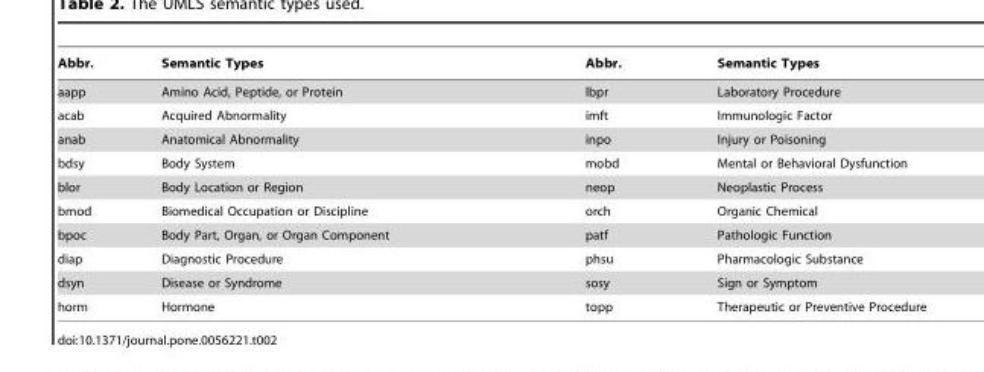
<table><thead><tr><td>Abbr.</td><td>Semantic Types</td><td>Abbr.</td><td>Semantic Types</td></tr></thead><tbody><tr><td>aapp</td><td>Amino Acid, Peptide, or Protein</td><td>lbpr</td><td>Laboratory Procedure</td></tr><tr><td>acab</td><td>Acquired Abnormality</td><td>imft</td><td>Immunologic Factor</td></tr><tr><td>anab</td><td>Anatomical Abnormality</td><td>inpo</td><td>Injury or Poisoning</td></tr><tr><td>bdsy</td><td>Body System</td><td>mobd</td><td>Mental or Behavioral Dysfunction</td></tr><tr><td>blor</td><td>Body Location or Region</td><td>neop</td><td>Neoplastic Process</td></tr><tr><td>bmod</td><td>Biomedical Occupation or Discipline</td><td>orch</td><td>Organic Chemical</td></tr><tr><td>bpoc</td><td>Body Part, Organ, or Organ Component</td><td>patf</td><td>Pathologic Function</td></tr><tr><td>diap</td><td>Diagnostic Procedure</td><td>phsu</td><td>Pharmacologic Substance</td></tr><tr><td>dsyn</td><td>Disease or Syndrome</td><td>sosy</td><td>Sign or Symptom</td></tr><tr><td>horm</td><td>Hormone</td><td>topp</td><td>Therapeutic or Preventive Procedure</td></tr></tbody></table>